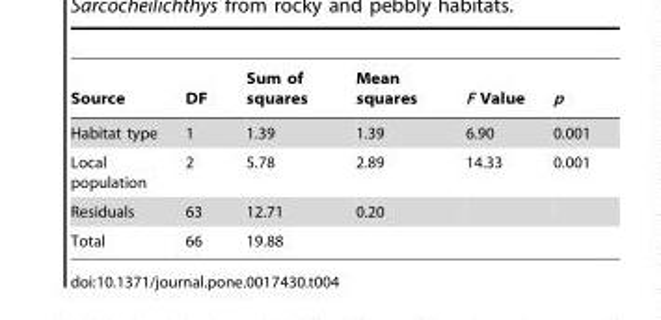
<table><thead><tr><td>Source</td><td>DF</td><td>Sum of squares</td><td>Mean squares</td><td>F Value</td><td>p</td></tr></thead><tbody><tr><td>Habitat type</td><td>1</td><td>1.39</td><td>1.39</td><td>6.90</td><td>0.001</td></tr><tr><td>Local population</td><td>2</td><td>5.78</td><td>2.89</td><td>14.33</td><td>0.001</td></tr><tr><td>Residuals</td><td>63</td><td>12.71</td><td>0.20</td><td></td><td></td></tr><tr><td>Total</td><td>66</td><td>19.88</td><td></td><td></td><td></td></tr></tbody></table>